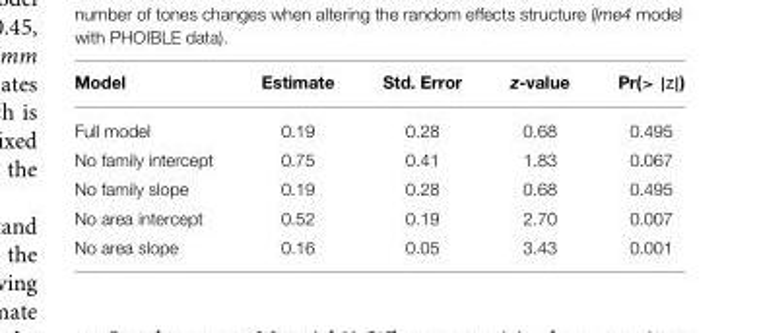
<table><thead><tr><td>Model</td><td>Estimate</td><td>Std. Error</td><td>z-value</td><td>Pr(&gt; |z|)</td></tr></thead><tbody><tr><td>Full model</td><td>0.19</td><td>0.28</td><td>0.68</td><td>0.495</td></tr><tr><td>No family intercept</td><td>0.75</td><td>0.41</td><td>1.83</td><td>0.067</td></tr><tr><td>No family slope</td><td>0.19</td><td>0.28</td><td>0.68</td><td>0.495</td></tr><tr><td>No area intercept</td><td>0.52</td><td>0.19</td><td>2.70</td><td>0.007</td></tr><tr><td>No area slope</td><td>0.16</td><td>0.05</td><td>3.43</td><td>0.001</td></tr></tbody></table>